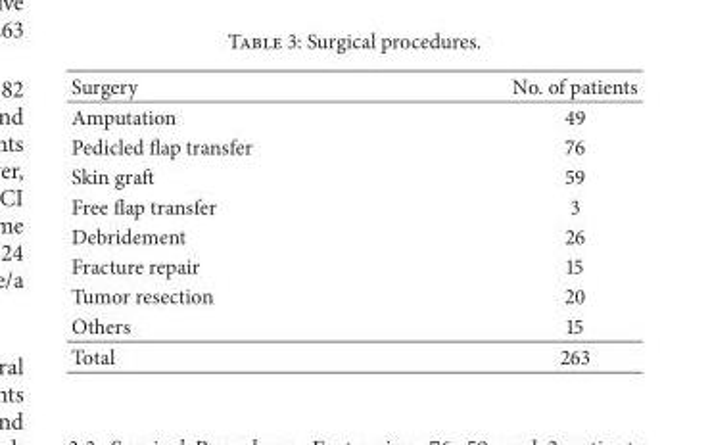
<table><thead><tr><td>Surgery</td><td>No. of patients</td></tr></thead><tbody><tr><td>Amputation</td><td>49</td></tr><tr><td>Pedicled flap transfer</td><td>76</td></tr><tr><td>Skin graft</td><td>59</td></tr><tr><td>Free flap transfer</td><td>3</td></tr><tr><td>Debridement</td><td>26</td></tr><tr><td>Fracture repair</td><td>15</td></tr><tr><td>Tumor resection</td><td>20</td></tr><tr><td>Others</td><td>15</td></tr><tr><td>Total</td><td>263</td></tr></tbody></table>